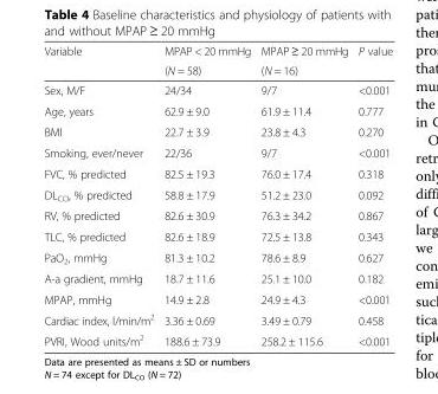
<table><thead><tr><td rowspan="2">Variable</td><td rowspan="2">MPAP &lt; 20 mmHg (N = 58)</td><td rowspan="2">MPAP ≥ 20 mmHg (N = 16)</td><td rowspan="2">P value</td></tr><tr></tr></thead><tbody><tr><td>Sex, M/F</td><td>24/34</td><td>9/7</td><td>&lt;0.001</td></tr><tr><td>Age, years</td><td>62.9 ± 9.0</td><td>61.9 ± 11.4</td><td>0.777</td></tr><tr><td>BMI</td><td>22.7 ± 3.9</td><td>23.8 ± 4.3</td><td>0.270</td></tr><tr><td>Smoking, ever/never</td><td>22/36</td><td>9/7</td><td>&lt;0.001</td></tr><tr><td>FVC, % predicted</td><td>82.5 ± 19.3</td><td>76.0 ± 17.4</td><td>0.318</td></tr><tr><td>DL<sub>CO</sub>, % predicted</td><td>58.8 ± 17.9</td><td>51.2 ± 23.0</td><td>0.092</td></tr><tr><td>RV, % predicted</td><td>82.6 ± 30.9</td><td>76.3 ± 34.2</td><td>0.867</td></tr><tr><td>TLC, % predicted</td><td>82.6 ± 18.9</td><td>72.5 ± 13.8</td><td>0.343</td></tr><tr><td>PaO<sub>2</sub>, mmHg</td><td>81.3 ± 10.2</td><td>78.6 ± 8.9</td><td>0.627</td></tr><tr><td>A-a gradient, mmHg</td><td>18.7 ± 11.6</td><td>25.1 ± 10.0</td><td>0.182</td></tr><tr><td>MPAP, mmHg</td><td>14.9 ± 2.8</td><td>24.9 ± 4.3</td><td>&lt;0.001</td></tr><tr><td>Cardiac index, l/min/m<sup>2</sup></td><td>3.36 ± 0.69</td><td>3.49 ± 0.79</td><td>0.458</td></tr><tr><td>PVRI, Wood units/m<sup>2</sup></td><td>188.6 ± 73.9</td><td>258.2 ± 115.6</td><td>&lt;0.001</td></tr></tbody></table>